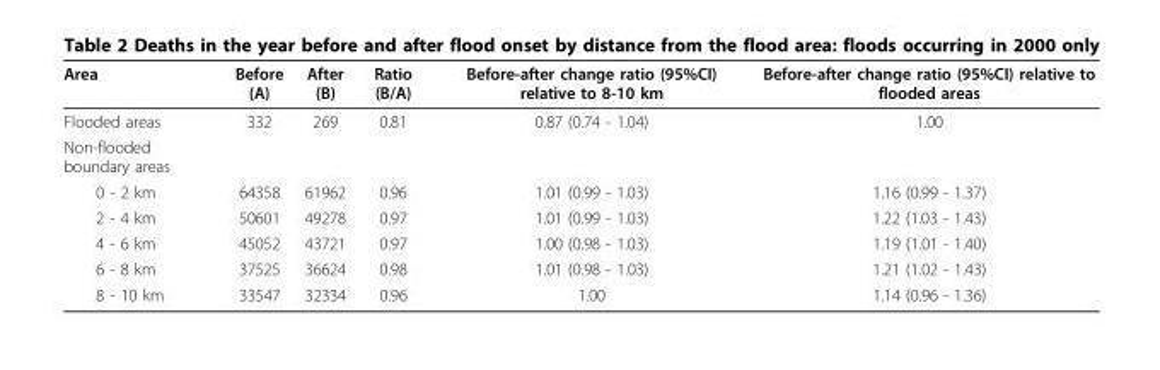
<table><thead><tr><td>Area</td><td>Before (A)</td><td>After (B)</td><td>Ratio (B/A)</td><td>Before-after change ratio (95%CI) relative to 8-10 km</td><td>Before-after change ratio (95%CI) relative to flooded areas</td></tr></thead><tbody><tr><td>Flooded areas</td><td>332</td><td>269</td><td>0.81</td><td>0.87 (0.74 - 1.04)</td><td>1.00</td></tr><tr><td colspan="6">Non-flooded boundary areas</td></tr><tr><td>0 - 2 km</td><td>64358</td><td>61962</td><td>0.96</td><td>1.01 (0.99 - 1.03)</td><td>1.16 (0.99 - 1.37)</td></tr><tr><td>2 - 4 km</td><td>50601</td><td>49278</td><td>0.97</td><td>1.01 (0.99 - 1.03)</td><td>1.22 (1.03 - 1.43)</td></tr><tr><td>4 - 6 km</td><td>45052</td><td>43721</td><td>0.97</td><td>1.00 (0.98 - 1.03)</td><td>1.19 (1.01 - 1.40)</td></tr><tr><td>6 - 8 km</td><td>37525</td><td>36624</td><td>0.98</td><td>1.01 (0.98 - 1.03)</td><td>1.21 (1.02 - 1.43)</td></tr><tr><td>8 - 10 km</td><td>33547</td><td>32334</td><td>0.96</td><td>1.00</td><td>1.14 (0.96 - 1.36)</td></tr></tbody></table>